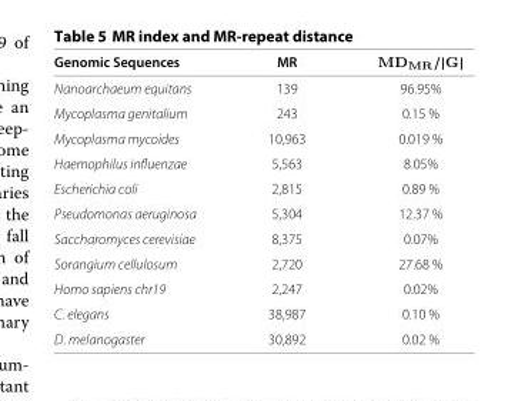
<table><thead><tr><td>Genomic Sequences</td><td>MR</td><td>MD<sub>MR</sub>/|G|</td></tr></thead><tbody><tr><td>Nanoarchaeum equitans</td><td>139</td><td>96.95%</td></tr><tr><td>Mycoplasma genitalium</td><td>243</td><td>0.15 %</td></tr><tr><td>Mycoplasma mycoides</td><td>10,963</td><td>0.019 %</td></tr><tr><td>Haemophilus influenzae</td><td>5,563</td><td>8.05%</td></tr><tr><td>Escherichia coli</td><td>2,815</td><td>0.89 %</td></tr><tr><td>Pseudomonas aeruginosa</td><td>5,304</td><td>12.37 %</td></tr><tr><td>Saccharomyces cerevisiae</td><td>8,375</td><td>0.07%</td></tr><tr><td>Sorangium cellulosum</td><td>2,720</td><td>27.68 %</td></tr><tr><td>Homo sapiens chr19</td><td>2,247</td><td>0.02%</td></tr><tr><td>C. elegans</td><td>38,987</td><td>0.10 %</td></tr><tr><td>D. melanogaster</td><td>30,892</td><td>0.02 %</td></tr></tbody></table>